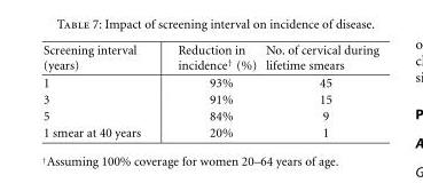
<table><tbody><tr><td>Screening interval (years)</td><td>Reduction in incidence<sup>†</sup> (%)</td><td>No. of cervical during lifetime smears</td></tr><tr><td>1</td><td>93%</td><td>45</td></tr><tr><td>3</td><td>91%</td><td>15</td></tr><tr><td>5</td><td>84%</td><td>9</td></tr><tr><td>1 smear at 40 years</td><td>20%</td><td>1</td></tr></tbody></table>